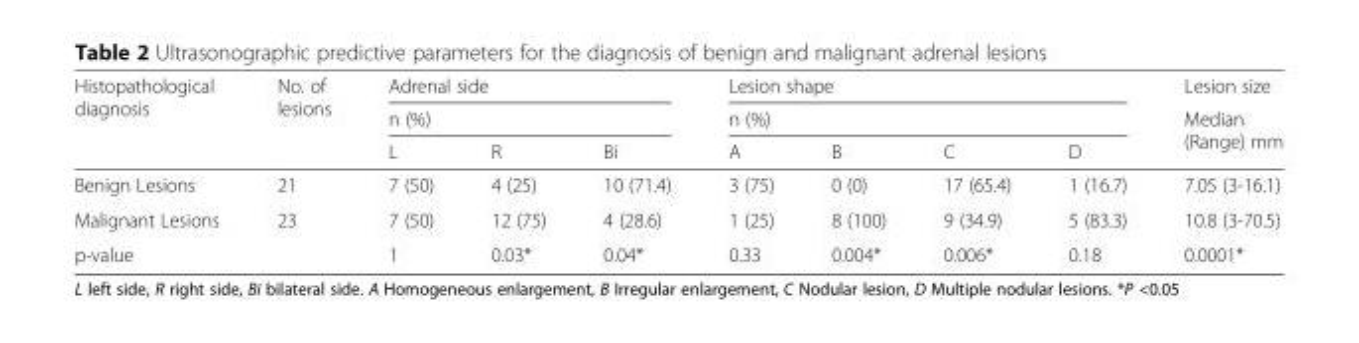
<table><thead><tr><td rowspan="3">Histopathological diagnosis</td><td rowspan="3">No. of lesions</td><td rowspan="2" colspan="3">Adrenal side n (%)</td><td rowspan="2" colspan="4">Lesion shape n (%)</td><td rowspan="3">Lesion size Median (Range) mm</td></tr><tr></tr><tr><td>L</td><td>R</td><td>Bi</td><td>A</td><td>B</td><td>C</td><td>D</td></tr></thead><tbody><tr><td>Benign Lesions</td><td>21</td><td>7 (50)</td><td>4 (25)</td><td>10 (71.4)</td><td>3 (75)</td><td>0 (0)</td><td>17 (65.4)</td><td>1 (16.7)</td><td>7.05 (3-16.1)</td></tr><tr><td>Malignant Lesions</td><td>23</td><td>7 (50)</td><td>12 (75)</td><td>4 (28.6)</td><td>1 (25)</td><td>8 (100)</td><td>9 (34.9)</td><td>5 (83.3)</td><td>10.8 (3-70.5)</td></tr><tr><td>p-value</td><td></td><td>1</td><td>0.03*</td><td>0.04*</td><td>0.33</td><td>0.004*</td><td>0.006*</td><td>0.18</td><td>0.0001*</td></tr></tbody></table>